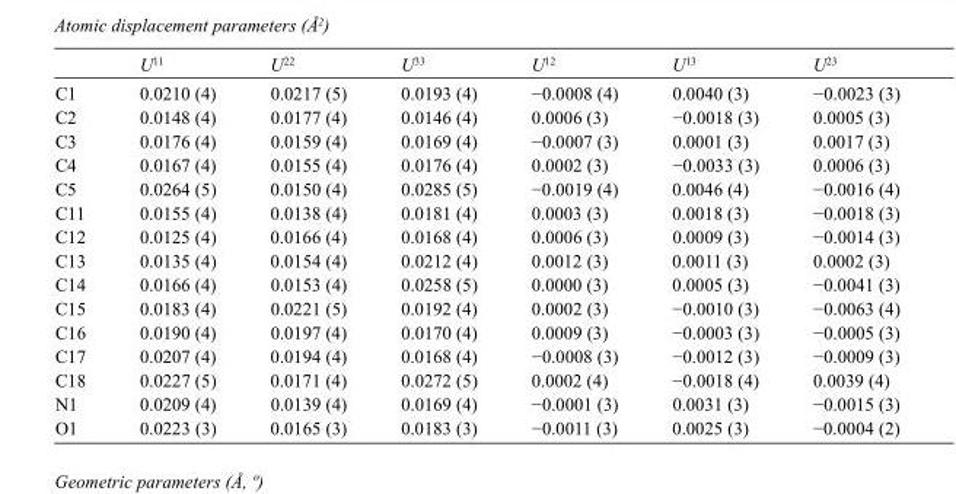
<table><thead><tr><td></td><td>U<sup>11</sup></td><td>U<sup>22</sup></td><td>U<sup>33</sup></td><td>U<sup>12</sup></td><td>U<sup>13</sup></td><td>U<sup>23</sup></td></tr></thead><tbody><tr><td>C1</td><td>0.0210 (4)</td><td>0.0217 (5)</td><td>0.0193 (4)</td><td>−0.0008 (4)</td><td>0.0040 (3)</td><td>−0.0023 (3)</td></tr><tr><td>C2</td><td>0.0148 (4)</td><td>0.0177 (4)</td><td>0.0146 (4)</td><td>0.0006 (3)</td><td>−0.0018 (3)</td><td>0.0005 (3)</td></tr><tr><td>C3</td><td>0.0176 (4)</td><td>0.0159 (4)</td><td>0.0169 (4)</td><td>−0.0007 (3)</td><td>0.0001 (3)</td><td>0.0017 (3)</td></tr><tr><td>C4</td><td>0.0167 (4)</td><td>0.0155 (4)</td><td>0.0176 (4)</td><td>0.0002 (3)</td><td>−0.0033 (3)</td><td>0.0006 (3)</td></tr><tr><td>C5</td><td>0.0264 (5)</td><td>0.0150 (4)</td><td>0.0285 (5)</td><td>−0.0019 (4)</td><td>0.0046 (4)</td><td>−0.0016 (4)</td></tr><tr><td>C11</td><td>0.0155 (4)</td><td>0.0138 (4)</td><td>0.0181 (4)</td><td>0.0003 (3)</td><td>0.0018 (3)</td><td>−0.0018 (3)</td></tr><tr><td>C12</td><td>0.0125 (4)</td><td>0.0166 (4)</td><td>0.0168 (4)</td><td>0.0006 (3)</td><td>0.0009 (3)</td><td>−0.0014 (3)</td></tr><tr><td>C13</td><td>0.0135 (4)</td><td>0.0154 (4)</td><td>0.0212 (4)</td><td>0.0012 (3)</td><td>0.0011 (3)</td><td>0.0002 (3)</td></tr><tr><td>C14</td><td>0.0166 (4)</td><td>0.0153 (4)</td><td>0.0258 (5)</td><td>0.0000 (3)</td><td>0.0005 (3)</td><td>−0.0041 (3)</td></tr><tr><td>C15</td><td>0.0183 (4)</td><td>0.0221 (5)</td><td>0.0192 (4)</td><td>0.0002 (3)</td><td>−0.0010 (3)</td><td>−0.0063 (4)</td></tr><tr><td>C16</td><td>0.0190 (4)</td><td>0.0197 (4)</td><td>0.0170 (4)</td><td>0.0009 (3)</td><td>−0.0003 (3)</td><td>−0.0005 (3)</td></tr><tr><td>C17</td><td>0.0207 (4)</td><td>0.0194 (4)</td><td>0.0168 (4)</td><td>−0.0008 (3)</td><td>−0.0012 (3)</td><td>−0.0009 (3)</td></tr><tr><td>C18</td><td>0.0227 (5)</td><td>0.0171 (4)</td><td>0.0272 (5)</td><td>0.0002 (4)</td><td>−0.0018 (4)</td><td>0.0039 (4)</td></tr><tr><td>N1</td><td>0.0209 (4)</td><td>0.0139 (4)</td><td>0.0169 (4)</td><td>−0.0001 (3)</td><td>0.0031 (3)</td><td>−0.0015 (3)</td></tr><tr><td>O1</td><td>0.0223 (3)</td><td>0.0165 (3)</td><td>0.0183 (3)</td><td>−0.0011 (3)</td><td>0.0025 (3)</td><td>−0.0004 (2)</td></tr></tbody></table>